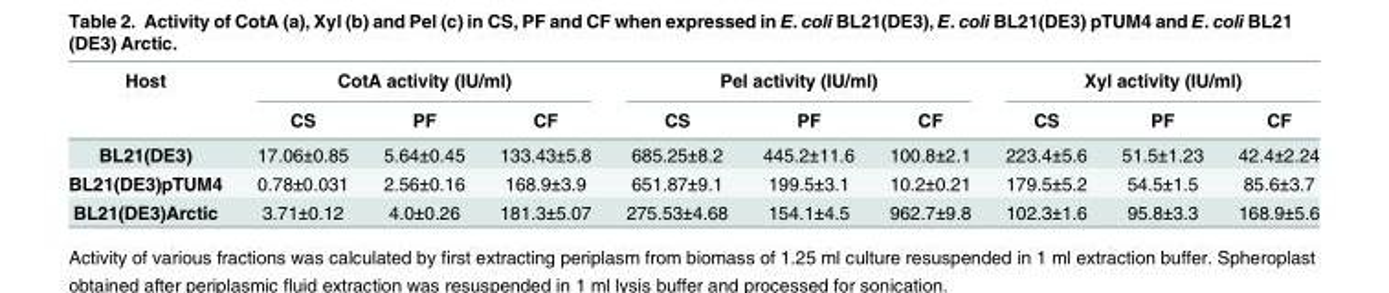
<table><thead><tr><td rowspan="2">Host</td><td colspan="3">CotA activity (IU/ml)</td><td colspan="3">Pel activity (IU/ml)</td><td colspan="3">Xyl activity (IU/ml)</td></tr><tr><td>CS</td><td>PF</td><td>CF</td><td>CS</td><td>PF</td><td>CF</td><td>CS</td><td>PF</td><td>CF</td></tr></thead><tbody><tr><td>BL21(DE3)</td><td>17.06±0.85</td><td>5.64±0.45</td><td>133.43±5.8</td><td>685.25±8.2</td><td>445.2±11.6</td><td>100.8±2.1</td><td>223.4±5.6</td><td>51.5±1.23</td><td>42.4±2.24</td></tr><tr><td>BL21(DE3)pTUM4</td><td>0.78±0.031</td><td>2.56±0.16</td><td>168.9±3.9</td><td>651.87±9.1</td><td>199.5±3.1</td><td>10.2±0.21</td><td>179.5±5.2</td><td>54.5±1.5</td><td>85.6±3.7</td></tr><tr><td>BL21(DE3)Arctic</td><td>3.71±0.12</td><td>4.0±0.26</td><td>181.3±5.07</td><td>275.53±4.68</td><td>154.1±4.5</td><td>962.7±9.8</td><td>102.3±1.6</td><td>95.8±3.3</td><td>168.9±5.6</td></tr></tbody></table>